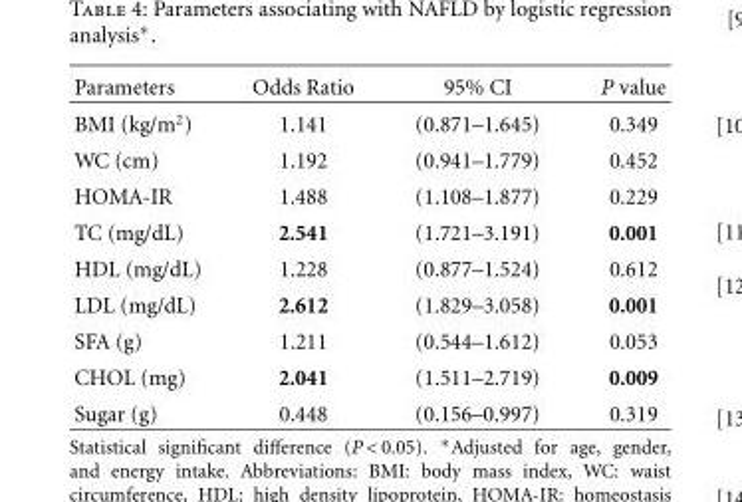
<table><thead><tr><td>Parameters</td><td>Odds Ratio</td><td>95% CI</td><td>P value</td></tr></thead><tbody><tr><td>BMI (kg/m<sup>2</sup>)</td><td>1.141</td><td>(0.871–1.645)</td><td>0.349</td></tr><tr><td>WC (cm)</td><td>1.192</td><td>(0.941–1.779)</td><td>0.452</td></tr><tr><td>HOMA-IR</td><td>1.488</td><td>(1.108–1.877)</td><td>0.229</td></tr><tr><td>TC (mg/dL)</td><td>2.541</td><td>(1.721–3.191)</td><td>0.001</td></tr><tr><td>HDL (mg/dL)</td><td>1.228</td><td>(0.877–1.524)</td><td>0.612</td></tr><tr><td>LDL (mg/dL)</td><td>2.612</td><td>(1.829–3.058)</td><td>0.001</td></tr><tr><td>SFA (g)</td><td>1.211</td><td>(0.544–1.612)</td><td>0.053</td></tr><tr><td>CHOL (mg)</td><td>2.041</td><td>(1.511–2.719)</td><td>0.009</td></tr><tr><td>Sugar (g)</td><td>0.448</td><td>(0.156–0.997)</td><td>0.319</td></tr></tbody></table>